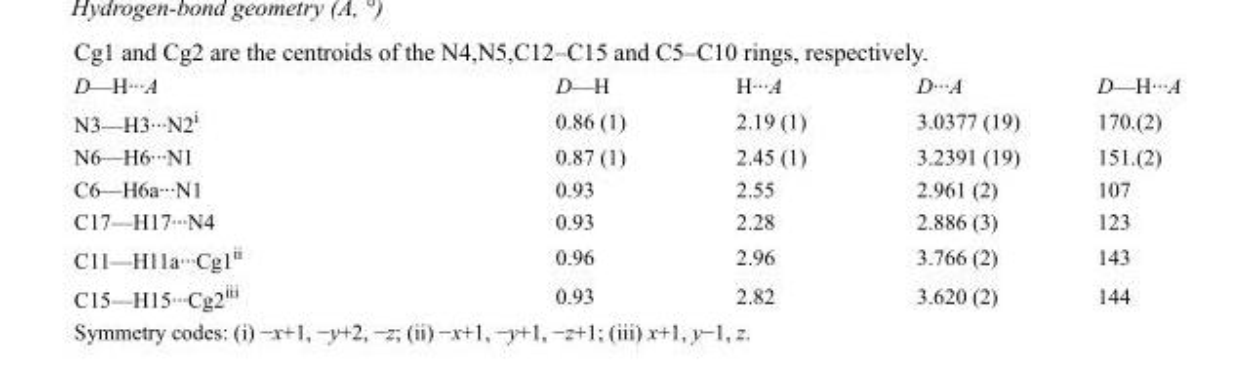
<table><tbody><tr><td>D—H···A</td><td>D—H</td><td>H···A</td><td>D···A</td><td>D—H···A</td></tr><tr><td>N3—H3···N2<sup>i</sup></td><td>0.86 (1)</td><td>2.19 (1)</td><td>3.0377 (19)</td><td>170.(2)</td></tr><tr><td>N6—H6···N1</td><td>0.87 (1)</td><td>2.45 (1)</td><td>3.2391 (19)</td><td>151.(2)</td></tr><tr><td>C6—H6a···N1</td><td>0.93</td><td>2.55</td><td>2.961 (2)</td><td>107</td></tr><tr><td>C17—H17···N4</td><td>0.93</td><td>2.28</td><td>2.886 (3)</td><td>123</td></tr><tr><td>C11—H11a···Cg1<sup>ii</sup></td><td>0.96</td><td>2.96</td><td>3.766 (2)</td><td>143</td></tr><tr><td>C15—H15···Cg2<sup>iii</sup></td><td>0.93</td><td>2.82</td><td>3.620 (2)</td><td>144</td></tr></tbody></table>